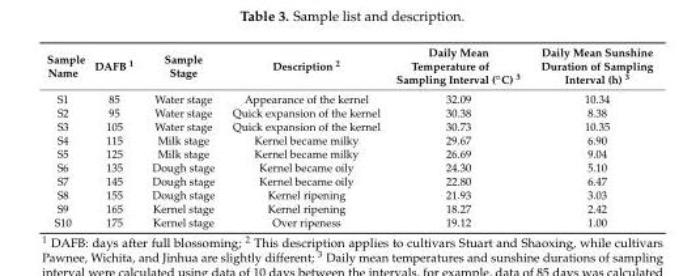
<table><thead><tr><td>Sample Name</td><td>DAFB <sup>1</sup></td><td>Sample Stage</td><td>Description <sup>2</sup></td><td>Daily Mean Temperature of Sampling Interval (◦C) 3</td><td>Daily Mean Sunshine Duration of Sampling Interval (h) <sup>3</sup></td></tr></thead><tbody><tr><td>S1</td><td>85</td><td>Water stage</td><td>Appearance of the kernel</td><td>32.09</td><td>10.34</td></tr><tr><td>S2</td><td>95</td><td>Water stage</td><td>Quick expansion of the kernel</td><td>30.38</td><td>8.38</td></tr><tr><td>S3</td><td>105</td><td>Water stage</td><td>Quick expansion of the kernel</td><td>30.73</td><td>10.35</td></tr><tr><td>S4</td><td>115</td><td>Milk stage</td><td>Kernel became milky</td><td>29.67</td><td>6.90</td></tr><tr><td>S5</td><td>125</td><td>Milk stage</td><td>Kernel became milky</td><td>26.69</td><td>9.04</td></tr><tr><td>S6</td><td>135</td><td>Dough stage</td><td>Kernel became oily</td><td>24.30</td><td>5.10</td></tr><tr><td>S7</td><td>145</td><td>Dough stage</td><td>Kernel became oily</td><td>22.80</td><td>6.47</td></tr><tr><td>S8</td><td>155</td><td>Dough stage</td><td>Kernel ripening</td><td>21.93</td><td>3.03</td></tr><tr><td>S9</td><td>165</td><td>Kernel stage</td><td>Kernel ripening</td><td>18.27</td><td>2.42</td></tr><tr><td>S10</td><td>175</td><td>Kernel stage</td><td>Over ripeness</td><td>19.12</td><td>1.00</td></tr></tbody></table>